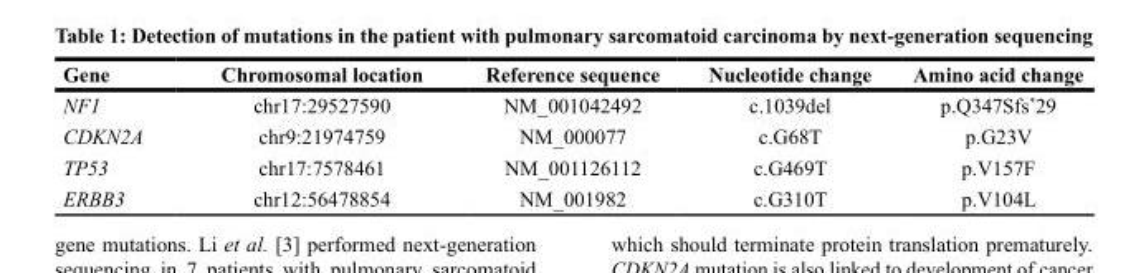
<table><thead><tr><td>Gene</td><td>Chromosomal location</td><td>Reference sequence</td><td>Nucleotide change</td><td>Amino acid change</td></tr></thead><tbody><tr><td>NF1</td><td>chr17:29527590</td><td>NM_001042492</td><td>c.1039del</td><td>p.Q347Sfs*29</td></tr><tr><td>CDKN2A</td><td>chr9:21974759</td><td>NM_000077</td><td>c.G68T</td><td>p.G23V</td></tr><tr><td>TP53</td><td>chr17:7578461</td><td>NM_001126112</td><td>c.G469T</td><td>p.V157F</td></tr><tr><td>ERBB3</td><td>chr12:56478854</td><td>NM_001982</td><td>c.G310T</td><td>p.V104L</td></tr></tbody></table>